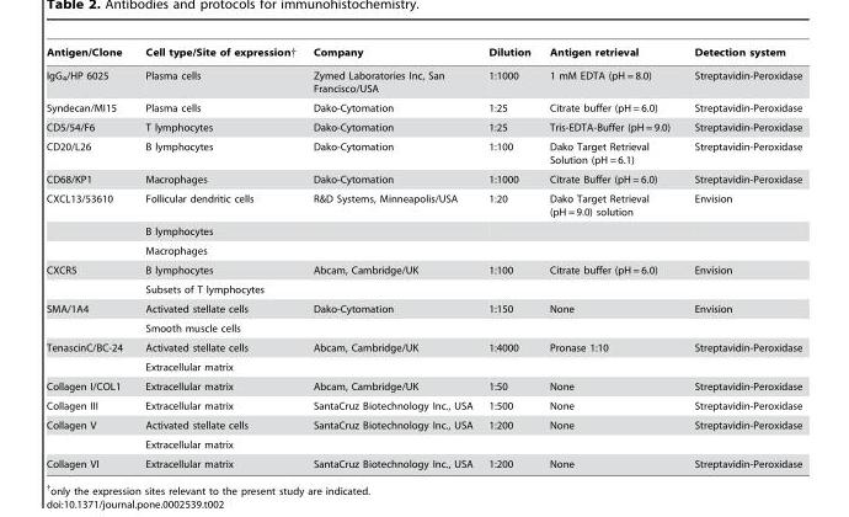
<table><thead><tr><td>Antigen/Clone</td><td>Cell type/Site of expression†</td><td>Company</td><td>Dilution</td><td>Antigen retrieval</td><td>Detection system</td></tr></thead><tbody><tr><td>IgG<sub>4</sub>/HP 6025</td><td>Plasma cells</td><td>Zymed Laboratories Inc, San Francisco/USA</td><td>1:1000</td><td>1 mM EDTA (pH = 8.0)</td><td>Streptavidin-Peroxidase</td></tr><tr><td>Syndecan/MI15</td><td>Plasma cells</td><td>Dako-Cytomation</td><td>1:25</td><td>Citrate buffer (pH = 6.0)</td><td>Streptavidin-Peroxidase</td></tr><tr><td>CD5/54/F6</td><td>T lymphocytes</td><td>Dako-Cytomation</td><td>1:25</td><td>Tris-EDTA-Buffer (pH = 9.0)</td><td>Streptavidin-Peroxidase</td></tr><tr><td>CD20/L26</td><td>B lymphocytes</td><td>Dako-Cytomation</td><td>1:100</td><td>Dako Target Retrieval Solution (pH = 6.1)</td><td>Streptavidin-Peroxidase</td></tr><tr><td>CD68/KP1</td><td>Macrophages</td><td>Dako-Cytomation</td><td>1:1000</td><td>Citrate Buffer (pH = 6.0)</td><td>Streptavidin-Peroxidase</td></tr><tr><td rowspan="3">CXCL13/53610</td><td>Follicular dendritic cells</td><td>R&amp;D Systems, Minneapolis/USA</td><td>1:20</td><td>Dako Target Retrieval (pH = 9.0) solution</td><td>Envision</td></tr><tr><td>B lymphocytes</td><td></td><td></td><td></td><td></td></tr><tr><td>Macrophages</td><td></td><td></td><td></td><td></td></tr><tr><td rowspan="2">CXCR5</td><td>B lymphocytes</td><td>Abcam, Cambridge/UK</td><td>1:100</td><td>Citrate buffer (pH = 6.0)</td><td>Envision</td></tr><tr><td>Subsets of T lymphocytes</td><td></td><td></td><td></td><td></td></tr><tr><td rowspan="2">SMA/1A4</td><td>Activated stellate cells</td><td>Dako-Cytomation</td><td>1:150</td><td>None</td><td>Envision</td></tr><tr><td>Smooth muscle cells</td><td></td><td></td><td></td><td></td></tr><tr><td rowspan="2">TenascinC/BC-24</td><td>Activated stellate cells</td><td>Abcam, Cambridge/UK</td><td>1:4000</td><td>Pronase 1:10</td><td>Streptavidin-Peroxidase</td></tr><tr><td>Extracellular matrix</td><td></td><td></td><td></td><td></td></tr><tr><td>Collagen I/COL1</td><td>Extracellular matrix</td><td>Abcam, Cambridge/UK</td><td>1:50</td><td>None</td><td>Streptavidin-Peroxidase</td></tr><tr><td>Collagen III</td><td>Extracellular matrix</td><td>SantaCruz Biotechnology Inc., USA</td><td>1:500</td><td>None</td><td>Streptavidin-Peroxidase</td></tr><tr><td rowspan="2">Collagen V</td><td>Activated stellate cells</td><td>SantaCruz Biotechnology Inc., USA</td><td>1:200</td><td>None</td><td>Streptavidin-Peroxidase</td></tr><tr><td>Extracellular matrix</td><td></td><td></td><td></td><td></td></tr><tr><td>Collagen VI</td><td>Extracellular matrix</td><td>SantaCruz Biotechnology Inc., USA</td><td>1:200</td><td>None</td><td>Streptavidin-Peroxidase</td></tr></tbody></table>